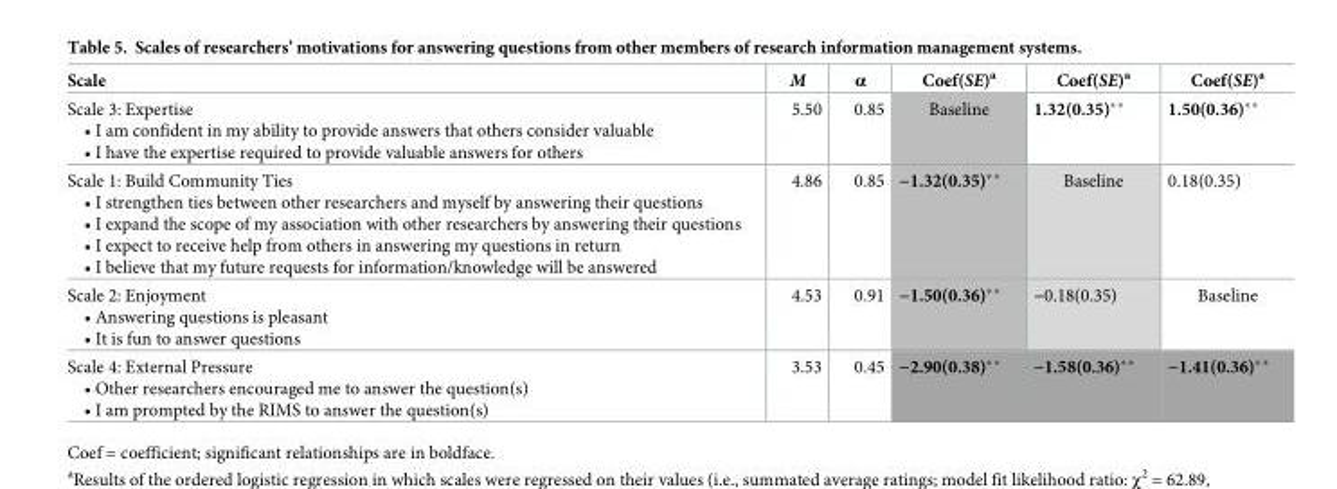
<table><thead><tr><td>Scale</td><td>M</td><td>α</td><td>Coef(SE)<sup>a</sup></td><td>Coef(SE)<sup>a</sup></td><td>Coef(SE)<sup>a</sup></td></tr></thead><tbody><tr><td>Scale 3: Expertise • I am confident in my ability to provide answers that others consider valuable • I have the expertise required to provide valuable answers for others</td><td>5.50</td><td>0.85</td><td>Baseline</td><td>1.32(0.35)**</td><td>1.50(0.36)**</td></tr><tr><td>Scale 1: Build Community Ties • I strengthen ties between other researchers and myself by answering their questions • I expand the scope of my association with other researchers by answering their questions • I expect to receive help from others in answering my questions in return • I believe that my future requests for information/knowledge will be answered</td><td>4.86</td><td>0.85</td><td>−1.32(0.35)**</td><td>Baseline</td><td>0.18(0.35)</td></tr><tr><td>Scale 2: Enjoyment • Answering questions is pleasant • It is fun to answer questions</td><td>4.53</td><td>0.91</td><td>−1.50(0.36)**</td><td>−0.18(0.35)</td><td>Baseline</td></tr><tr><td>Scale 4: External Pressure • Other researchers encouraged me to answer the question(s) • I am prompted by the RIMS to answer the question(s)</td><td>3.53</td><td>0.45</td><td>−2.90(0.38)**</td><td>−1.58(0.36)**</td><td>−1.41(0.36)**</td></tr></tbody></table>